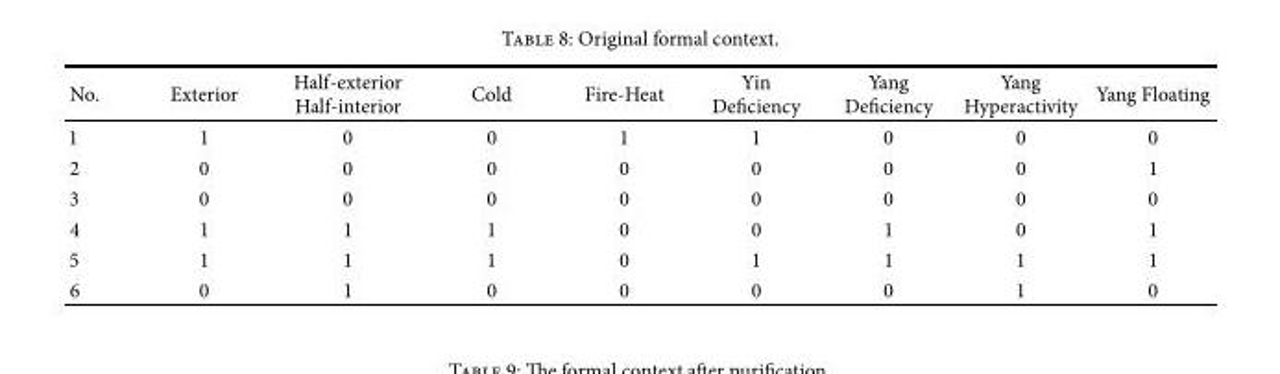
<table><thead><tr><td>No.</td><td>Exterior</td><td>Half-exterior Half-interior</td><td>Cold</td><td>Fire-Heat</td><td>Yin Deficiency</td><td>Yang Deficiency</td><td>Yang Hyperactivity</td><td>Yang Floating</td></tr></thead><tbody><tr><td>1</td><td>1</td><td>0</td><td>0</td><td>1</td><td>1</td><td>0</td><td>0</td><td>0</td></tr><tr><td>2</td><td>0</td><td>0</td><td>0</td><td>0</td><td>0</td><td>0</td><td>0</td><td>1</td></tr><tr><td>3</td><td>0</td><td>0</td><td>0</td><td>0</td><td>0</td><td>0</td><td>0</td><td>0</td></tr><tr><td>4</td><td>1</td><td>1</td><td>1</td><td>0</td><td>0</td><td>1</td><td>0</td><td>1</td></tr><tr><td>5</td><td>1</td><td>1</td><td>1</td><td>0</td><td>1</td><td>1</td><td>1</td><td>1</td></tr><tr><td>6</td><td>0</td><td>1</td><td>0</td><td>0</td><td>0</td><td>0</td><td>1</td><td>0</td></tr></tbody></table>